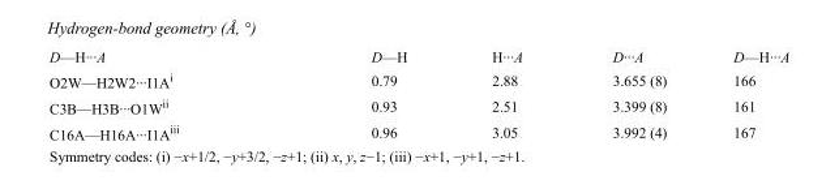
<table><tbody><tr><td>D—H···A</td><td>D—H</td><td>H···A</td><td>D···A</td><td>D—H···A</td></tr><tr><td>O2W—H2W2···I1A<sup>i</sup></td><td>0.79</td><td>2.88</td><td>3.655 (8)</td><td>166</td></tr><tr><td>C3B—H3B···O1W<sup>ii</sup></td><td>0.93</td><td>2.51</td><td>3.399 (8)</td><td>161</td></tr><tr><td>C16A—H16A···I1A<sup>iii</sup></td><td>0.96</td><td>3.05</td><td>3.992 (4)</td><td>167</td></tr></tbody></table>